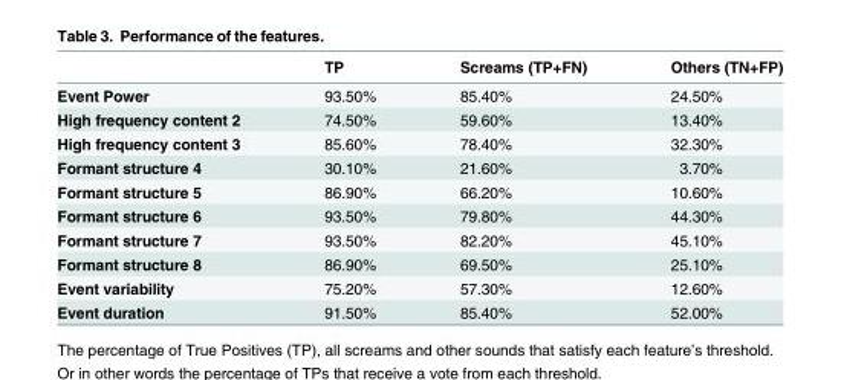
<table><thead><tr><td></td><td>TP</td><td>Screams (TP+FN)</td><td>Others (TN+FP)</td></tr></thead><tbody><tr><td>Event Power</td><td>93.50%</td><td>85.40%</td><td>24.50%</td></tr><tr><td>High frequency content 2</td><td>74.50%</td><td>59.60%</td><td>13.40%</td></tr><tr><td>High frequency content 3</td><td>85.60%</td><td>78.40%</td><td>32.30%</td></tr><tr><td>Formant structure 4</td><td>30.10%</td><td>21.60%</td><td>3.70%</td></tr><tr><td>Formant structure 5</td><td>86.90%</td><td>66.20%</td><td>10.60%</td></tr><tr><td>Formant structure 6</td><td>93.50%</td><td>79.80%</td><td>44.30%</td></tr><tr><td>Formant structure 7</td><td>93.50%</td><td>82.20%</td><td>45.10%</td></tr><tr><td>Formant structure 8</td><td>86.90%</td><td>69.50%</td><td>25.10%</td></tr><tr><td>Event variability</td><td>75.20%</td><td>57.30%</td><td>12.60%</td></tr><tr><td>Event duration</td><td>91.50%</td><td>85.40%</td><td>52.00%</td></tr></tbody></table>